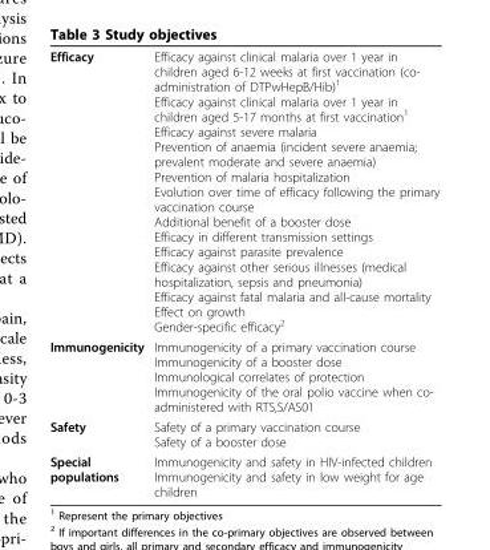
<table><tbody><tr><td>Efficacy</td><td>Efficacy against clinical malaria over 1 year in children aged 6-12 weeks at first vaccination (co- administration of DTPwHepB/Hib)<sup>1</sup> Efficacy against clinical malaria over 1 year in children aged 5-17 months at first vaccination<sup>1</sup> Efficacy against severe malaria Prevention of anaemia (incident severe anaemia; prevalent moderate and severe anaemia) Prevention of malaria hospitalization Evolution over time of efficacy following the primary vaccination course Additional benefit of a booster dose Efficacy in different transmission settings Efficacy against parasite prevalence Efficacy against other serious illnesses (medical hospitalization, sepsis and pneumonia) Efficacy against fatal malaria and all-cause mortality Effect on growth Gender-specific efficacy<sup>2</sup></td></tr><tr><td>Immunogenicity</td><td>Immunogenicity of a primary vaccination course Immunogenicity of a booster dose Immunological correlates of protection Immunogenicity of the oral polio vaccine when co- administered with RTS,S/AS01</td></tr><tr><td>Safety</td><td>Safety of a primary vaccination course Safety of a booster dose</td></tr><tr><td>Special populations</td><td>Immunogenicity and safety in HIV-infected children Immunogenicity and safety in low weight for age children</td></tr></tbody></table>